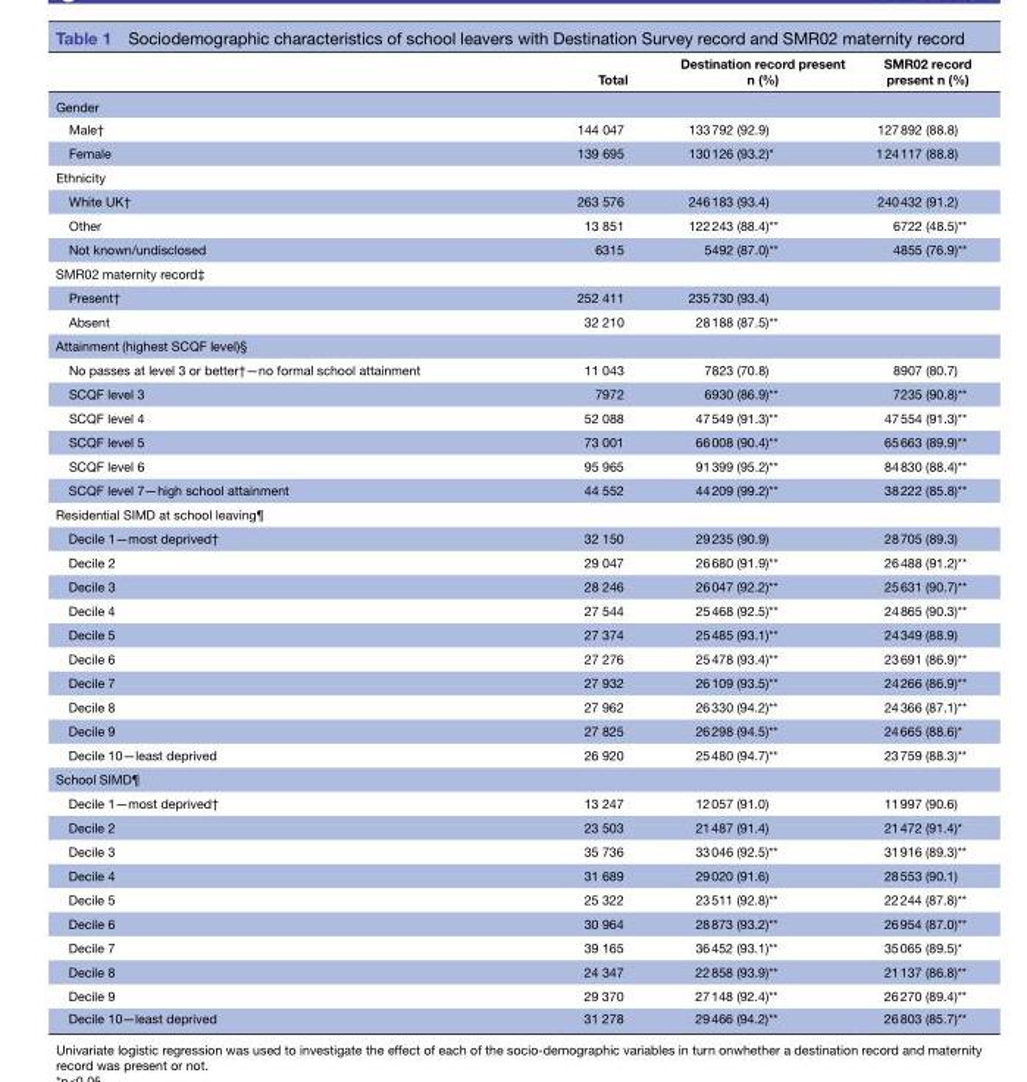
<table><thead><tr><td></td><td>Total</td><td>Destination record present n (%)</td><td>SMR02 record present n (%)</td></tr></thead><tbody><tr><td colspan="4">Gender</td></tr><tr><td>Male†</td><td>144 047</td><td>133 792 (92.9)</td><td>127 892 (88.8)</td></tr><tr><td>Female</td><td>139 695</td><td>130 126 (93.2)*</td><td>1 24 117 (88.8)</td></tr><tr><td colspan="4">Ethnicity</td></tr><tr><td>White UK†</td><td>263 576</td><td>246 183 (93.4)</td><td>240 432 (91.2)</td></tr><tr><td>Other</td><td>13 851</td><td>122 243 (88.4)**</td><td>6722 (48.5)**</td></tr><tr><td>Not known/undisclosed</td><td>6315</td><td>5492 (87.0)**</td><td>4855 (76.9)**</td></tr><tr><td colspan="4">SMR02 maternity record‡</td></tr><tr><td>Present†</td><td>252 411</td><td>235 730 (93.4)</td><td></td></tr><tr><td>Absent</td><td>32 210</td><td>28 188 (87.5)**</td><td></td></tr><tr><td colspan="4">Attainment (highest SCQF level)§</td></tr><tr><td>No passes at level 3 or better†—no formal school attainment</td><td>11 043</td><td>7823 (70.8)</td><td>8907 (80.7)</td></tr><tr><td>SCQF level 3</td><td>7972</td><td>6930 (86.9)**</td><td>7235 (90.8)**</td></tr><tr><td>SCQF level 4</td><td>52 088</td><td>47 549 (91.3)**</td><td>47 554 (91.3)**</td></tr><tr><td>SCQF level 5</td><td>73 001</td><td>66 008 (90.4)**</td><td>65 663 (89.9)**</td></tr><tr><td>SCQF level 6</td><td>95 965</td><td>91 399 (95.2)**</td><td>84 830 (88.4)**</td></tr><tr><td>SCQF level 7—high school attainment</td><td>44 552</td><td>44 209 (99.2)**</td><td>38 222 (85.8)**</td></tr><tr><td colspan="4">Residential SIMD at school leaving¶</td></tr><tr><td>Decile 1—most deprived†</td><td>32 150</td><td>29 235 (90.9)</td><td>28 705 (89.3)</td></tr><tr><td>Decile 2</td><td>29 047</td><td>26 680 (91.9)**</td><td>26 488 (91.2)**</td></tr><tr><td>Decile 3</td><td>28 246</td><td>26 047 (92.2)**</td><td>25 631 (90.7)**</td></tr><tr><td>Decile 4</td><td>27 544</td><td>25 468 (92.5)**</td><td>24 865 (90.3)**</td></tr><tr><td>Decile 5</td><td>27 374</td><td>25 485 (93.1)**</td><td>24 349 (88.9)</td></tr><tr><td>Decile 6</td><td>27 276</td><td>25 478 (93.4)**</td><td>23 691 (86.9)**</td></tr><tr><td>Decile 7</td><td>27 932</td><td>26 109 (93.5)**</td><td>24 266 (86.9)**</td></tr><tr><td>Decile 8</td><td>27 962</td><td>26 330 (94.2)**</td><td>24 366 (87.1)**</td></tr><tr><td>Decile 9</td><td>27 825</td><td>26 298 (94.5)**</td><td>24 665 (88.6)*</td></tr><tr><td>Decile 10—least deprived</td><td>26 920</td><td>25 480 (94.7)**</td><td>23 759 (88.3)**</td></tr><tr><td colspan="4">School SIMD¶</td></tr><tr><td>Decile 1—most deprived†</td><td>13 247</td><td>12 057 (91.0)</td><td>11 997 (90.6)</td></tr><tr><td>Decile 2</td><td>23 503</td><td>21 487 (91.4)</td><td>21 472 (91.4)*</td></tr><tr><td>Decile 3</td><td>35 736</td><td>33 046 (92.5)**</td><td>31 916 (89.3)**</td></tr><tr><td>Decile 4</td><td>31 689</td><td>29 020 (91.6)</td><td>28 553 (90.1)</td></tr><tr><td>Decile 5</td><td>25 322</td><td>23 511 (92.8)**</td><td>22 244 (87.8)**</td></tr><tr><td>Decile 6</td><td>30 964</td><td>28 873 (93.2)**</td><td>26 954 (87.0)**</td></tr><tr><td>Decile 7</td><td>39 165</td><td>36 452 (93.1)**</td><td>35 065 (89.5)*</td></tr><tr><td>Decile 8</td><td>24 347</td><td>22 858 (93.9)**</td><td>21 137 (86.8)**</td></tr><tr><td>Decile 9</td><td>29 370</td><td>27 148 (92.4)**</td><td>26 270 (89.4)**</td></tr><tr><td>Decile 10—least deprived</td><td>31 278</td><td>29 466 (94.2)**</td><td>26 803 (85.7)**</td></tr></tbody></table>